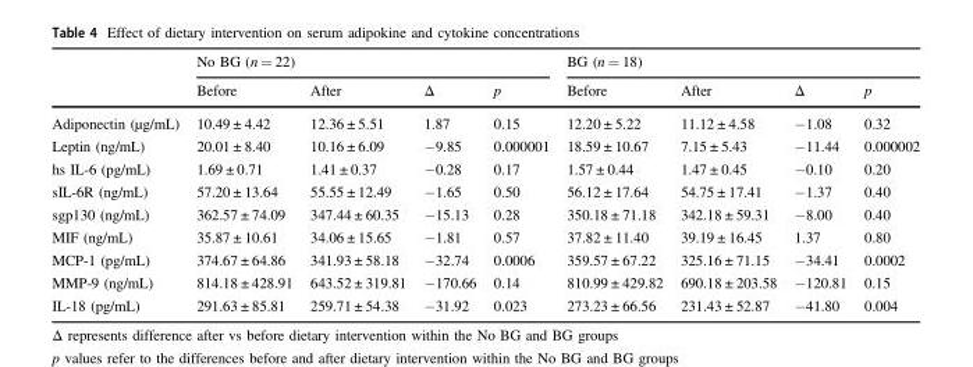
<table><thead><tr><td rowspan="2"></td><td colspan="4">No BG (n = 22)</td><td colspan="4">BG (n = 18)</td></tr><tr><td>Before</td><td>After</td><td>Δ</td><td>p</td><td>Before</td><td>After</td><td>Δ</td><td>p</td></tr></thead><tbody><tr><td>Adiponectin (μg/mL)</td><td>10.49 ± 4.42</td><td>12.36 ± 5.51</td><td>1.87</td><td>0.15</td><td>12.20 ± 5.22</td><td>11.12 ± 4.58</td><td>−1.08</td><td>0.32</td></tr><tr><td>Leptin (ng/mL)</td><td>20.01 ± 8.40</td><td>10.16 ± 6.09</td><td>−9.85</td><td>0.000001</td><td>18.59 ± 10.67</td><td>7.15 ± 5.43</td><td>−11.44</td><td>0.000002</td></tr><tr><td>hs IL-6 (pg/mL)</td><td>1.69 ± 0.71</td><td>1.41 ± 0.37</td><td>−0.28</td><td>0.17</td><td>1.57 ± 0.44</td><td>1.47 ± 0.45</td><td>−0.10</td><td>0.20</td></tr><tr><td>sIL-6R (ng/mL)</td><td>57.20 ± 13.64</td><td>55.55 ± 12.49</td><td>−1.65</td><td>0.50</td><td>56.12 ± 17.64</td><td>54.75 ± 17.41</td><td>−1.37</td><td>0.40</td></tr><tr><td>sgp130 (ng/mL)</td><td>362.57 ± 74.09</td><td>347.44 ± 60.35</td><td>−15.13</td><td>0.28</td><td>350.18 ± 71.18</td><td>342.18 ± 59.31</td><td>−8.00</td><td>0.40</td></tr><tr><td>MIF (ng/mL)</td><td>35.87 ± 10.61</td><td>34.06 ± 15.65</td><td>−1.81</td><td>0.57</td><td>37.82 ± 11.40</td><td>39.19 ± 16.45</td><td>1.37</td><td>0.80</td></tr><tr><td>MCP-1 (pg/mL)</td><td>374.67 ± 64.86</td><td>341.93 ± 58.18</td><td>−32.74</td><td>0.0006</td><td>359.57 ± 67.22</td><td>325.16 ± 71.15</td><td>−34.41</td><td>0.0002</td></tr><tr><td>MMP-9 (ng/mL)</td><td>814.18 ± 428.91</td><td>643.52 ± 319.81</td><td>−170.66</td><td>0.14</td><td>810.99 ± 429.82</td><td>690.18 ± 203.58</td><td>−120.81</td><td>0.15</td></tr><tr><td>IL-18 (pg/mL)</td><td>291.63 ± 85.81</td><td>259.71 ± 54.38</td><td>−31.92</td><td>0.023</td><td>273.23 ± 66.56</td><td>231.43 ± 52.87</td><td>−41.80</td><td>0.004</td></tr></tbody></table>